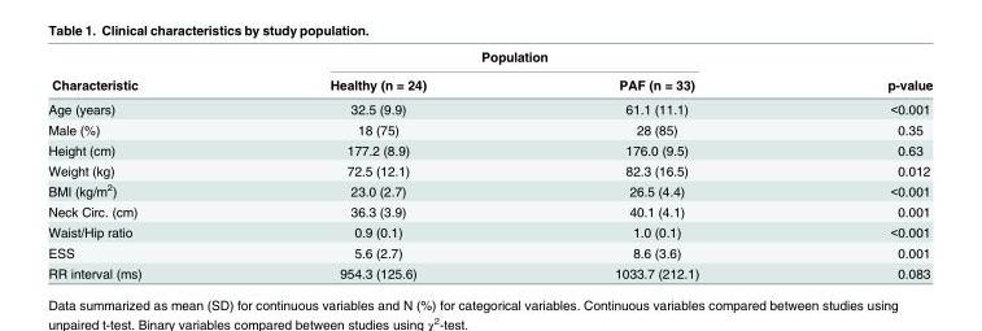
<table><thead><tr><td rowspan="2">Characteristic</td><td colspan="2">Population</td><td rowspan="2">p-value</td></tr><tr><td>Healthy (n = 24)</td><td>PAF (n = 33)</td></tr></thead><tbody><tr><td>Age (years)</td><td>32.5 (9.9)</td><td>61.1 (11.1)</td><td>&lt;0.001</td></tr><tr><td>Male (%)</td><td>18 (75)</td><td>28 (85)</td><td>0.35</td></tr><tr><td>Height (cm)</td><td>177.2 (8.9)</td><td>176.0 (9.5)</td><td>0.63</td></tr><tr><td>Weight (kg)</td><td>72.5 (12.1)</td><td>82.3 (16.5)</td><td>0.012</td></tr><tr><td>BMI (kg/m<sup>2</sup>)</td><td>23.0 (2.7)</td><td>26.5 (4.4)</td><td>&lt;0.001</td></tr><tr><td>Neck Circ. (cm)</td><td>36.3 (3.9)</td><td>40.1 (4.1)</td><td>0.001</td></tr><tr><td>Waist/Hip ratio</td><td>0.9 (0.1)</td><td>1.0 (0.1)</td><td>&lt;0.001</td></tr><tr><td>ESS</td><td>5.6 (2.7)</td><td>8.6 (3.6)</td><td>0.001</td></tr><tr><td>RR interval (ms)</td><td>954.3 (125.6)</td><td>1033.7 (212.1)</td><td>0.083</td></tr></tbody></table>